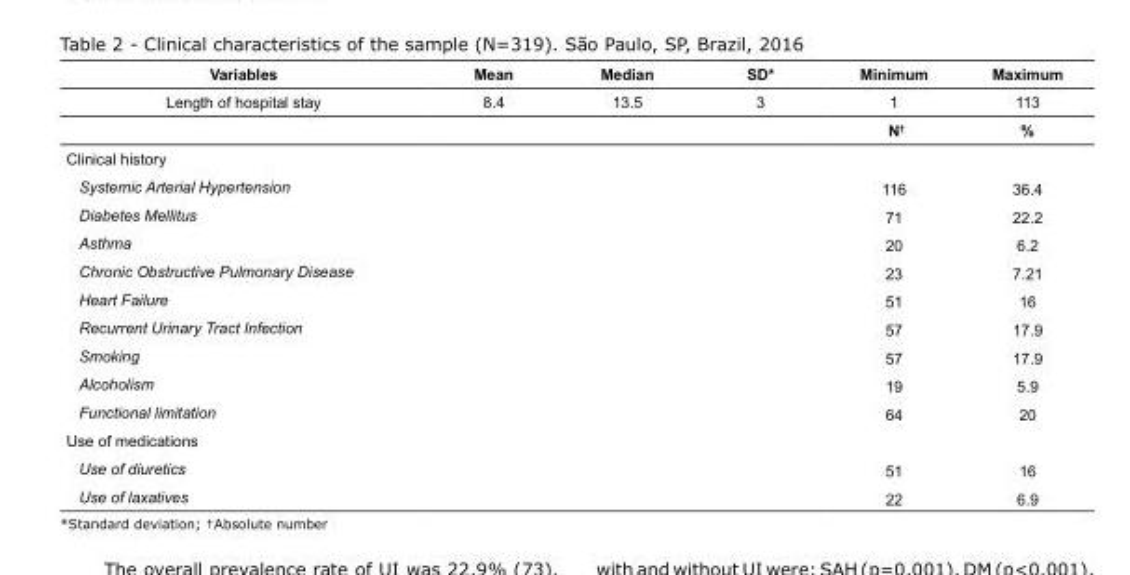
<table><tbody><tr><td>Variables</td><td>Mean</td><td>Median</td><td>SD*</td><td>Minimum</td><td>Maximum</td></tr><tr><td rowspan="2">Length of hospital stay</td><td>8.4</td><td>13.5</td><td>3</td><td>1</td><td>113</td></tr><tr><td></td><td></td><td></td><td>N<sup>†</sup></td><td>%</td></tr><tr><td colspan="6">Clinical history</td></tr><tr><td>Systemic Arterial Hypertension</td><td></td><td></td><td></td><td>116</td><td>36.4</td></tr><tr><td>Diabetes Mellitus</td><td></td><td></td><td></td><td>71</td><td>22.2</td></tr><tr><td>Asthma</td><td></td><td></td><td></td><td>20</td><td>6.2</td></tr><tr><td>Chronic Obstructive Pulmonary Disease</td><td></td><td></td><td></td><td>23</td><td>7.21</td></tr><tr><td>Heart Failure</td><td></td><td></td><td></td><td>51</td><td>16</td></tr><tr><td>Recurrent Urinary Tract Infection</td><td></td><td></td><td></td><td>57</td><td>17.9</td></tr><tr><td>Smoking</td><td></td><td></td><td></td><td>57</td><td>17.9</td></tr><tr><td>Alcoholism</td><td></td><td></td><td></td><td>19</td><td>5.9</td></tr><tr><td>Functional limitation</td><td></td><td></td><td></td><td>64</td><td>20</td></tr><tr><td colspan="6">Use of medications</td></tr><tr><td>Use of diuretics</td><td></td><td></td><td></td><td>51</td><td>16</td></tr><tr><td>Use of laxatives</td><td></td><td></td><td></td><td>22</td><td>6.9</td></tr></tbody></table>